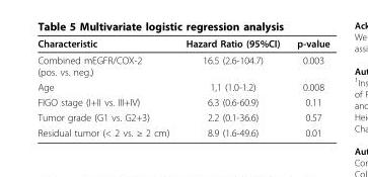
<table><thead><tr><td>Characteristic</td><td>Hazard Ratio (95%CI)</td><td>p-value</td></tr></thead><tbody><tr><td>Combined mEGFR/COX-2 (pos. vs. neg.)</td><td>16.5 (2.6-104.7)</td><td>0.003</td></tr><tr><td>Age</td><td>1,1 (1.0-1.2)</td><td>0.008</td></tr><tr><td>FIGO stage (I+II vs. III+IV)</td><td>6.3 (0.6-60.9)</td><td>0.11</td></tr><tr><td>Tumor grade (G1 vs. G2+3)</td><td>2.2 (0.1-36.6)</td><td>0.57</td></tr><tr><td>Residual tumor (&lt; 2 vs. ≥ 2 cm)</td><td>8.9 (1.6-49.6)</td><td>0.01</td></tr></tbody></table>